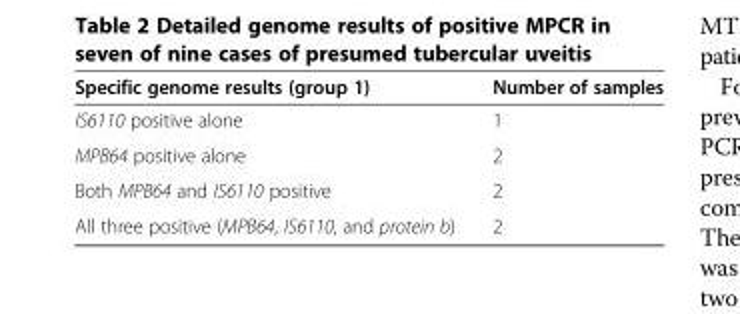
<table><thead><tr><td>Specific genome results (group 1)</td><td>Number of samples</td></tr></thead><tbody><tr><td>IS6110 positive alone</td><td>1</td></tr><tr><td>MPB64 positive alone</td><td>2</td></tr><tr><td>Both MPB64 and IS6110 positive</td><td>2</td></tr><tr><td>All three positive (MPB64, IS6110, and protein b)</td><td>2</td></tr></tbody></table>